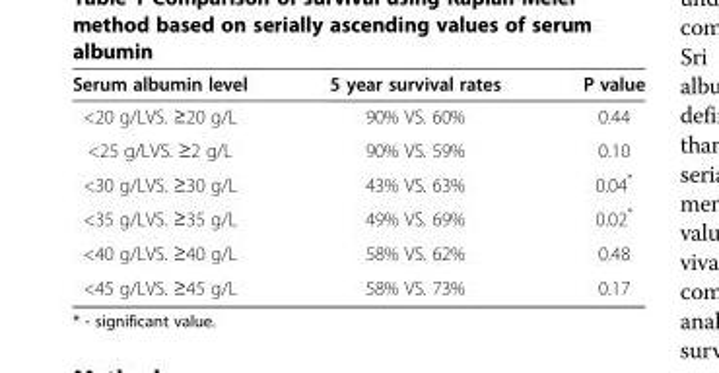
<table><thead><tr><td>Serum albumin level</td><td>5 year survival rates</td><td>P value</td></tr></thead><tbody><tr><td>&lt;20 g/LVS. ≥20 g/L</td><td>90% VS. 60%</td><td>0.44</td></tr><tr><td>&lt;25 g/LVS. ≥2 g/L</td><td>90% VS. 59%</td><td>0.10</td></tr><tr><td>&lt;30 g/LVS. ≥30 g/L</td><td>43% VS. 63%</td><td>0.04*</td></tr><tr><td>&lt;35 g/LVS. ≥35 g/L</td><td>49% VS. 69%</td><td>0.02*</td></tr><tr><td>&lt;40 g/LVS. ≥40 g/L</td><td>58% VS. 62%</td><td>0.48</td></tr><tr><td>&lt;45 g/LVS. ≥45 g/L</td><td>58% VS. 73%</td><td>0.17</td></tr></tbody></table>